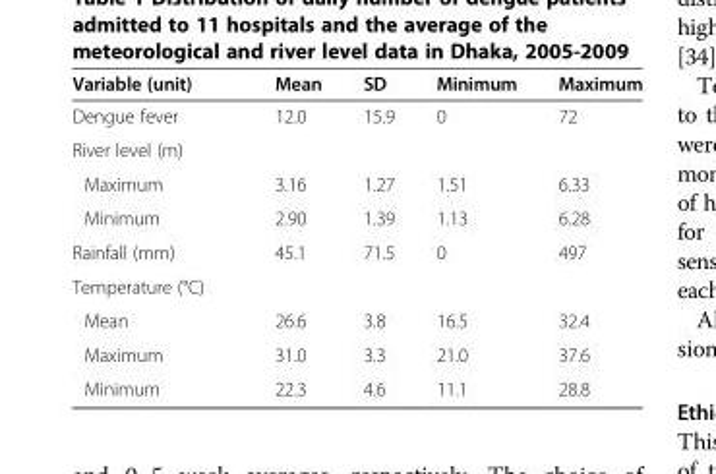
<table><thead><tr><td>Variable (unit)</td><td>Mean</td><td>SD</td><td>Minimum</td><td>Maximum</td></tr></thead><tbody><tr><td>Dengue fever</td><td>12.0</td><td>15.9</td><td>0</td><td>72</td></tr><tr><td colspan="5">River level (m)</td></tr><tr><td>Maximum</td><td>3.16</td><td>1.27</td><td>1.51</td><td>6.33</td></tr><tr><td>Minimum</td><td>2.90</td><td>1.39</td><td>1.13</td><td>6.28</td></tr><tr><td>Rainfall (mm)</td><td>45.1</td><td>71.5</td><td>0</td><td>497</td></tr><tr><td colspan="5">Temperature (°C)</td></tr><tr><td>Mean</td><td>26.6</td><td>3.8</td><td>16.5</td><td>32.4</td></tr><tr><td>Maximum</td><td>31.0</td><td>3.3</td><td>21.0</td><td>37.6</td></tr><tr><td>Minimum</td><td>22.3</td><td>4.6</td><td>11.1</td><td>28.8</td></tr></tbody></table>